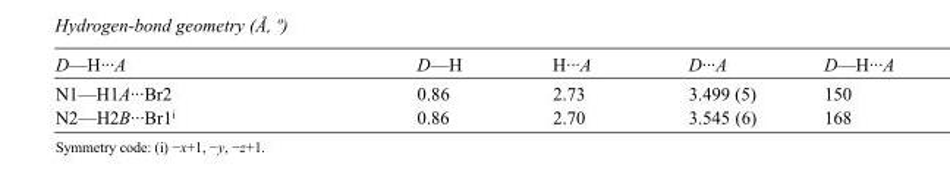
<table><tbody><tr><td>D—H···A</td><td>D—H</td><td>H···A</td><td>D···A</td><td>D—H···A</td></tr><tr><td>N1—H1A···Br2</td><td>0.86</td><td>2.73</td><td>3.499 (5)</td><td>150</td></tr><tr><td>N2—H2B···Br1<sup>i</sup></td><td>0.86</td><td>2.70</td><td>3.545 (6)</td><td>168</td></tr></tbody></table>